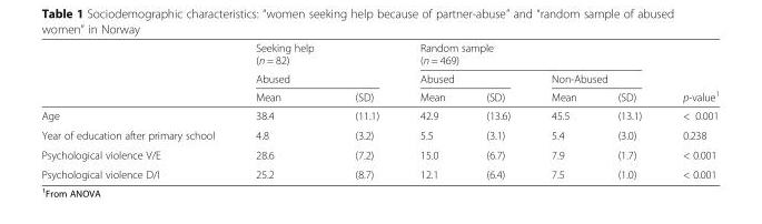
<table><thead><tr><td rowspan="3"></td><td>Seeking help (n = 82)</td><td></td><td colspan="4">Random sample (n = 469)</td><td rowspan="3">p-value<sup>1</sup></td></tr><tr><td colspan="2">Abused</td><td colspan="2">Abused</td><td colspan="2">Non-Abused</td></tr><tr><td>Mean</td><td>(SD)</td><td>Mean</td><td>(SD)</td><td>Mean</td><td>(SD)</td></tr></thead><tbody><tr><td>Age</td><td>38.4</td><td>(11.1)</td><td>42.9</td><td>(13.6)</td><td>45.5</td><td>(13.1)</td><td>&lt; 0.001</td></tr><tr><td>Year of education after primary school</td><td>4.8</td><td>(3.2)</td><td>5.5</td><td>(3.1)</td><td>5.4</td><td>(3.0)</td><td>0.238</td></tr><tr><td>Psychological violence V/E</td><td>28.6</td><td>(7.2)</td><td>15.0</td><td>(6.7)</td><td>7.9</td><td>(1.7)</td><td>&lt; 0.001</td></tr><tr><td>Psychological violence D/I</td><td>25.2</td><td>(8.7)</td><td>12.1</td><td>(6.4)</td><td>7.5</td><td>(1.0)</td><td>&lt; 0.001</td></tr></tbody></table>